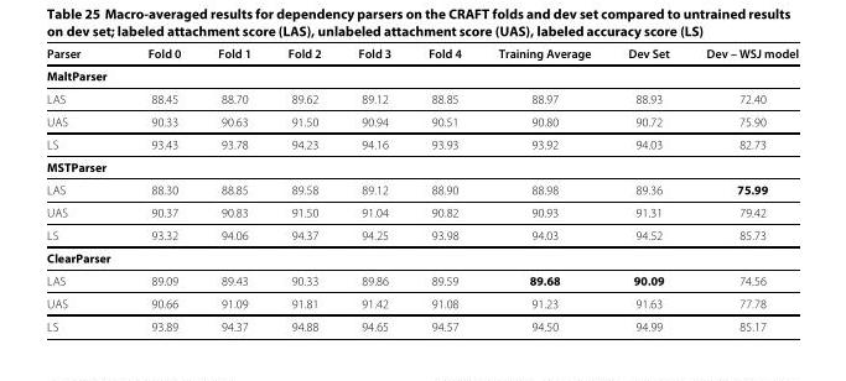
<table><thead><tr><td>Parser</td><td>Fold 0</td><td>Fold 1</td><td>Fold 2</td><td>Fold 3</td><td>Fold 4</td><td>Training Average</td><td>Dev Set</td><td>Dev – WSJ model</td></tr></thead><tbody><tr><td colspan="9">MaltParser</td></tr><tr><td>LAS</td><td>88.45</td><td>88.70</td><td>89.62</td><td>89.12</td><td>88.85</td><td>88.97</td><td>88.93</td><td>72.40</td></tr><tr><td>UAS</td><td>90.33</td><td>90.63</td><td>91.50</td><td>90.94</td><td>90.51</td><td>90.80</td><td>90.72</td><td>75.90</td></tr><tr><td>LS</td><td>93.43</td><td>93.78</td><td>94.23</td><td>94.16</td><td>93.93</td><td>93.92</td><td>94.03</td><td>82.73</td></tr><tr><td colspan="9">MSTParser</td></tr><tr><td>LAS</td><td>88.30</td><td>88.85</td><td>89.58</td><td>89.12</td><td>88.90</td><td>88.98</td><td>89.36</td><td>75.99</td></tr><tr><td>UAS</td><td>90.37</td><td>90.83</td><td>91.50</td><td>91.04</td><td>90.82</td><td>90.93</td><td>91.31</td><td>79.42</td></tr><tr><td>LS</td><td>93.32</td><td>94.06</td><td>94.37</td><td>94.25</td><td>93.98</td><td>94.03</td><td>94.52</td><td>85.73</td></tr><tr><td colspan="9">ClearParser</td></tr><tr><td>LAS</td><td>89.09</td><td>89.43</td><td>90.33</td><td>89.86</td><td>89.59</td><td>89.68</td><td>90.09</td><td>74.56</td></tr><tr><td>UAS</td><td>90.66</td><td>91.09</td><td>91.81</td><td>91.42</td><td>91.08</td><td>91.23</td><td>91.63</td><td>77.78</td></tr><tr><td>LS</td><td>93.89</td><td>94.37</td><td>94.88</td><td>94.65</td><td>94.57</td><td>94.50</td><td>94.99</td><td>85.17</td></tr></tbody></table>